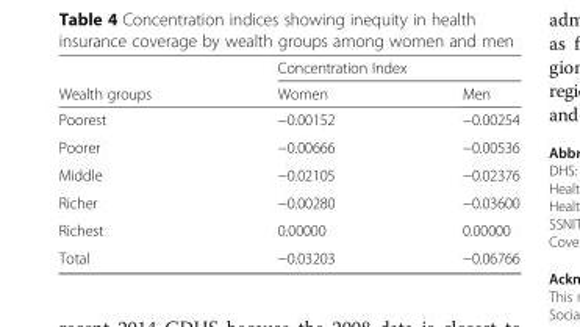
<table><thead><tr><td rowspan="2">Wealth groups</td><td colspan="2">Concentration Index</td></tr><tr><td>Women</td><td>Men</td></tr></thead><tbody><tr><td>Poorest</td><td>−0.00152</td><td>−0.00254</td></tr><tr><td>Poorer</td><td>−0.00666</td><td>−0.00536</td></tr><tr><td>Middle</td><td>−0.02105</td><td>−0.02376</td></tr><tr><td>Richer</td><td>−0.00280</td><td>−0.03600</td></tr><tr><td>Richest</td><td>0.00000</td><td>0.00000</td></tr><tr><td>Total</td><td>−0.03203</td><td>−0.06766</td></tr></tbody></table>